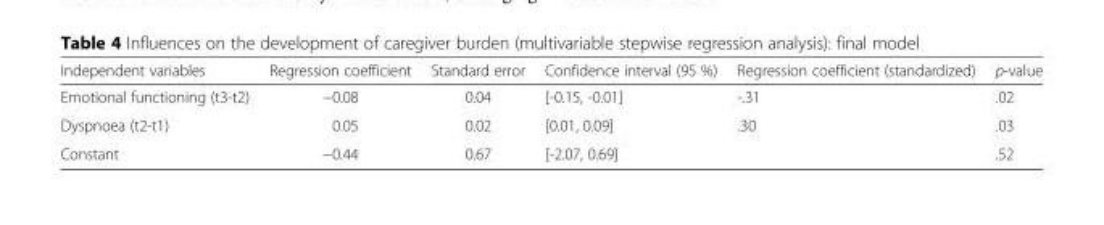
<table><thead><tr><td>Independent variables</td><td>Regression coefficient</td><td>Standard error</td><td>Confidence interval (95 %)</td><td>Regression coefficient (standardized)</td><td>p-value</td></tr></thead><tbody><tr><td>Emotional functioning (t3-t2)</td><td>−0.08</td><td>0.04</td><td>[-0.15, -0.01]</td><td>-.31</td><td>.02</td></tr><tr><td>Dyspnoea (t2-t1)</td><td>0.05</td><td>0.02</td><td>[0.01, 0.09]</td><td>.30</td><td>.03</td></tr><tr><td>Constant</td><td>−0.44</td><td>0.67</td><td>[-2.07, 0.69]</td><td></td><td>.52</td></tr></tbody></table>